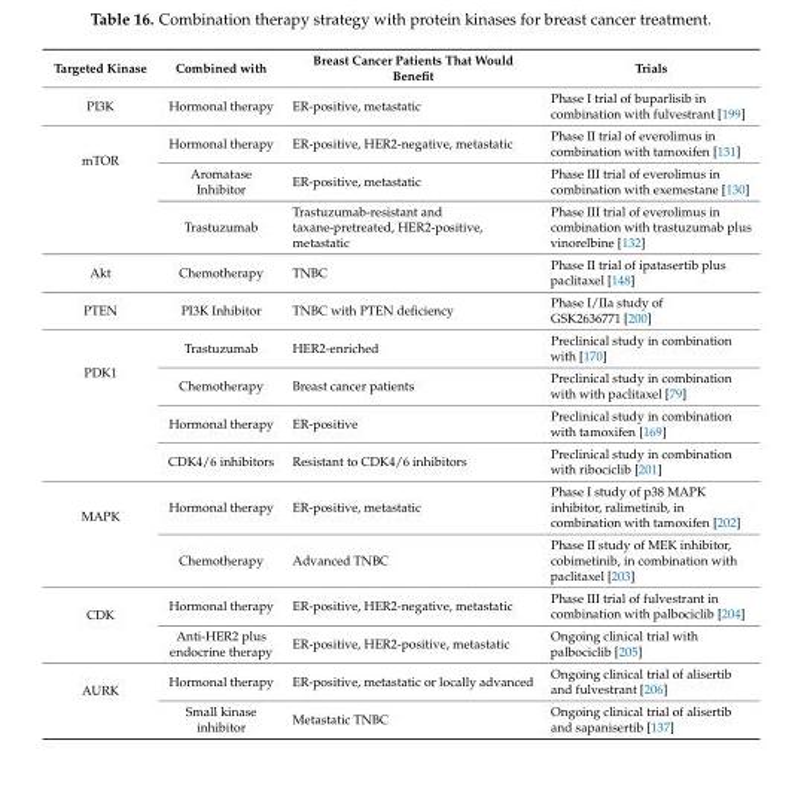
<table><thead><tr><td>Targeted Kinase</td><td>Combined with</td><td>Breast Cancer Patients That Would Benefit</td><td>Trials</td></tr></thead><tbody><tr><td>PI3K</td><td>Hormonal therapy</td><td>ER-positive, metastatic</td><td>Phase I trial of buparlisib in combination with fulvestrant [199]</td></tr><tr><td rowspan="3">mTOR</td><td>Hormonal therapy</td><td>ER-positive, HER2-negative, metastatic</td><td>Phase II trial of everolimus in combination with tamoxifen [131]</td></tr><tr><td>Aromatase Inhibitor</td><td>ER-positive, metastatic</td><td>Phase III trial of everolimus in combination with exemestane [130]</td></tr><tr><td>Trastuzumab</td><td>Trastuzumab-resistant and taxane-pretreated, HER2-positive, metastatic</td><td>Phase III trial of everolimus in combination with trastuzumab plus vinorelbine [132]</td></tr><tr><td>Akt</td><td>Chemotherapy</td><td>TNBC</td><td>Phase II trial of ipatasertib plus paclitaxel [148]</td></tr><tr><td>PTEN</td><td>PI3K Inhibitor</td><td>TNBC with PTEN deficiency</td><td>Phase I/IIa study of GSK2636771 [200]</td></tr><tr><td rowspan="4">PDK1</td><td>Trastuzumab</td><td>HER2-enriched</td><td>Preclinical study in combination with [170]</td></tr><tr><td>Chemotherapy</td><td>Breast cancer patients</td><td>Preclinical study in combination with with paclitaxel [79]</td></tr><tr><td>Hormonal therapy</td><td>ER-positive</td><td>Preclinical study in combination with tamoxifen [169]</td></tr><tr><td>CDK4/6 inhibitors</td><td>Resistant to CDK4/6 inhibitors</td><td>Preclinical study in combination with ribociclib [201]</td></tr><tr><td rowspan="2">MAPK</td><td>Hormonal therapy</td><td>ER-positive, metastatic</td><td>Phase I study of p38 MAPK inhibitor, ralimetinib, in combination with tamoxifen [202]</td></tr><tr><td>Chemotherapy</td><td>Advanced TNBC</td><td>Phase II study of MEK inhibitor, cobimetinib, in combination with paclitaxel [203]</td></tr><tr><td rowspan="2">CDK</td><td>Hormonal therapy</td><td>ER-positive, HER2-negative, metastatic</td><td>Phase III trial of fulvestrant in combination with palbociclib [204]</td></tr><tr><td>Anti-HER2 plus endocrine therapy</td><td>ER-positive, HER2-positive, metastatic</td><td>Ongoing clinical trial with palbociclib [205]</td></tr><tr><td rowspan="2">AURK</td><td>Hormonal therapy</td><td>ER-positive, metastatic or locally advanced</td><td>Ongoing clinical trial of alisertib and fulvestrant [206]</td></tr><tr><td>Small kinase inhibitor</td><td>Metastatic TNBC</td><td>Ongoing clinical trial of alisertib and sapanisertib [137]</td></tr></tbody></table>